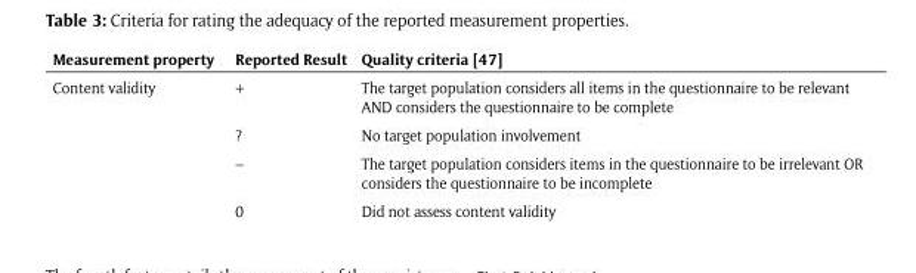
<table><thead><tr><td>Measurement property</td><td>Reported Result</td><td>Quality criteria [47]</td></tr></thead><tbody><tr><td rowspan="4">Content validity</td><td>+</td><td>The target population considers all items in the questionnaire to be relevant AND considers the questionnaire to be complete</td></tr><tr><td>?</td><td>No target population involvement</td></tr><tr><td>–</td><td>The target population considers items in the questionnaire to be irrelevant OR considers the questionnaire to be incomplete</td></tr><tr><td>0</td><td>Did not assess content validity</td></tr></tbody></table>